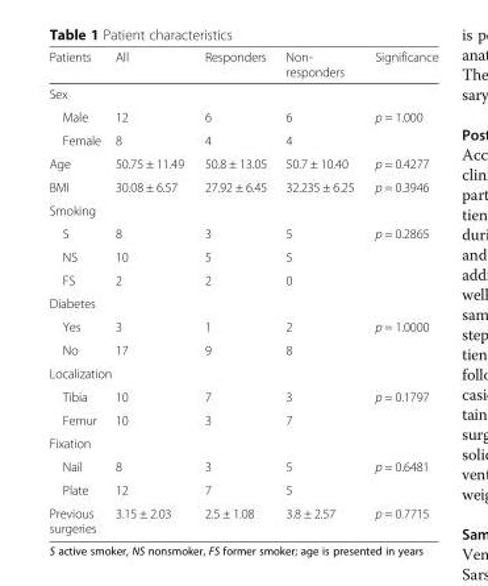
<table><thead><tr><td>Patients</td><td>All</td><td>Responders</td><td>Non- responders</td><td>Significance</td></tr></thead><tbody><tr><td colspan="5">Sex</td></tr><tr><td>Male</td><td>12</td><td>6</td><td>6</td><td rowspan="2">p = 1.000</td></tr><tr><td>Female</td><td>8</td><td>4</td><td>4</td></tr><tr><td>Age</td><td>50.75 ± 11.49</td><td>50.8 ± 13.05</td><td>50.7 ± 10.40</td><td>p = 0.4277</td></tr><tr><td>BMI</td><td>30.08 ± 6.57</td><td>27.92 ± 6.45</td><td>32.235 ± 6.25</td><td>p = 0.3946</td></tr><tr><td colspan="5">Smoking</td></tr><tr><td>S</td><td>8</td><td>3</td><td>5</td><td rowspan="3">p = 0.2865</td></tr><tr><td>NS</td><td>10</td><td>5</td><td>5</td></tr><tr><td>FS</td><td>2</td><td>2</td><td>0</td></tr><tr><td colspan="5">Diabetes</td></tr><tr><td>Yes</td><td>3</td><td>1</td><td>2</td><td rowspan="2">p = 1.0000</td></tr><tr><td>No</td><td>17</td><td>9</td><td>8</td></tr><tr><td colspan="5">Localization</td></tr><tr><td>Tibia</td><td>10</td><td>7</td><td>3</td><td rowspan="2">p = 0.1797</td></tr><tr><td>Femur</td><td>10</td><td>3</td><td>7</td></tr><tr><td colspan="5">Fixation</td></tr><tr><td>Nail</td><td>8</td><td>3</td><td>5</td><td rowspan="2">p = 0.6481</td></tr><tr><td>Plate</td><td>12</td><td>7</td><td>5</td></tr><tr><td>Previous surgeries</td><td>3.15 ± 2.03</td><td>2.5 ± 1.08</td><td>3.8 ± 2.57</td><td>p = 0.7715</td></tr></tbody></table>